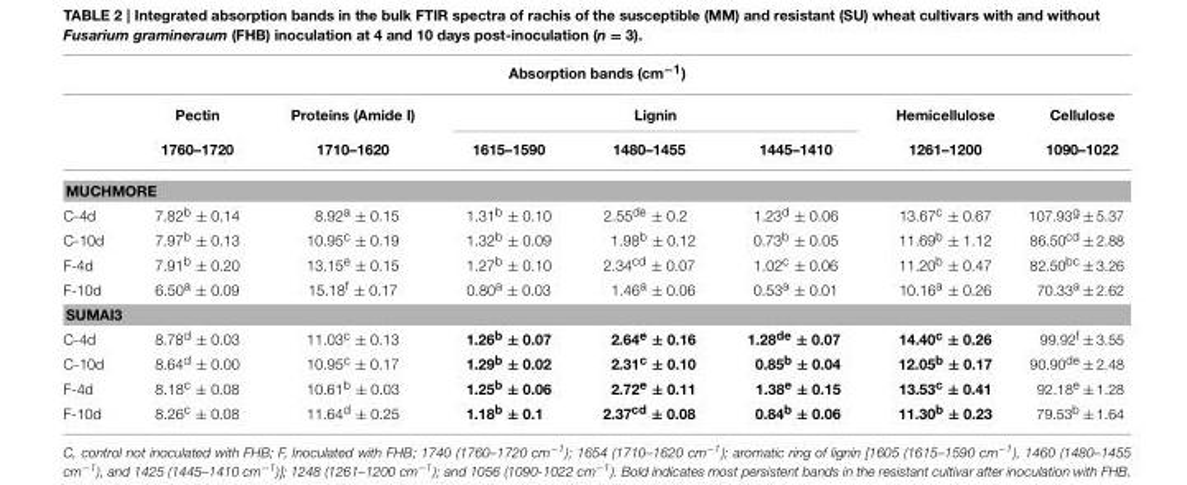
<table><thead><tr><td colspan="8">Absorption bands (cm<sup>−1</sup>)</td></tr><tr><td rowspan="2"></td><td rowspan="2">Pectin 1760–1720</td><td rowspan="2">Proteins (Amide I) 1710–1620</td><td colspan="3">Lignin</td><td rowspan="2">Hemicellulose 1261–1200</td><td rowspan="2">Cellulose 1090–1022</td></tr><tr><td>1615–1590</td><td>1480–1455</td><td>1445–1410</td></tr></thead><tbody><tr><td colspan="8">MUCHMORE</td></tr><tr><td>C-4d</td><td>7.82<sup>b</sup> ± 0.14</td><td>8.92<sup>a</sup> ± 0.15</td><td>1.31<sup>b</sup> ± 0.10</td><td>2.55<sup>de</sup> ± 0.2</td><td>1.23<sup>d</sup> ± 0.06</td><td>13.67<sup>c</sup> ± 0.67</td><td>107.93<sup>g</sup> ± 5.37</td></tr><tr><td>C-10d</td><td>7.97<sup>b</sup> ± 0.13</td><td>10.95<sup>c</sup> ± 0.19</td><td>1.32<sup>b</sup> ± 0.09</td><td>1.98<sup>b</sup> ± 0.12</td><td>0.73<sup>b</sup> ± 0.05</td><td>11.69<sup>b</sup> ± 1.12</td><td>86.50<sup>cd</sup> ± 2.88</td></tr><tr><td>F-4d</td><td>7.91<sup>b</sup> ± 0.20</td><td>13.15<sup>e</sup> ± 0.15</td><td>1.27<sup>b</sup> ± 0.10</td><td>2.34<sup>cd</sup> ± 0.07</td><td>1.02<sup>c</sup> ± 0.06</td><td>11.20<sup>b</sup> ± 0.47</td><td>82.50<sup>bc</sup> ± 3.26</td></tr><tr><td>F-10d</td><td>6.50<sup>a</sup> ± 0.09</td><td>15.18<sup>f</sup> ± 0.17</td><td>0.80<sup>a</sup> ± 0.03</td><td>1.46<sup>a</sup> ± 0.06</td><td>0.53<sup>a</sup> ± 0.01</td><td>10.16<sup>a</sup> ± 0.26</td><td>70.33<sup>a</sup> ± 2.62</td></tr><tr><td colspan="8">SUMAI3</td></tr><tr><td>C-4d</td><td>8.78<sup>d</sup> ± 0.03</td><td>11.03<sup>c</sup> ± 0.13</td><td>1.26<sup>b</sup> ± 0.07</td><td>2.64<sup>e</sup> ± 0.16</td><td>1.28<sup>de</sup> ± 0.07</td><td>14.40<sup>c</sup> ± 0.26</td><td>99.92<sup>f</sup> ± 3.55</td></tr><tr><td>C-10d</td><td>8.64<sup>d</sup> ± 0.00</td><td>10.95<sup>c</sup> ± 0.17</td><td>1.29<sup>b</sup> ± 0.02</td><td>2.31<sup>c</sup> ± 0.10</td><td>0.85<sup>b</sup> ± 0.04</td><td>12.05<sup>b</sup> ± 0.17</td><td>90.90<sup>de</sup> ± 2.48</td></tr><tr><td>F-4d</td><td>8.18<sup>c</sup> ± 0.08</td><td>10.61<sup>b</sup> ± 0.03</td><td>1.25<sup>b</sup> ± 0.06</td><td>2.72<sup>e</sup> ± 0.11</td><td>1.38<sup>e</sup> ± 0.15</td><td>13.53<sup>c</sup> ± 0.41</td><td>92.18<sup>e</sup> ± 1.28</td></tr><tr><td>F-10<sup>d</sup></td><td>8.26<sup>c</sup> ± 0.08</td><td>11.64<sup>d</sup> ± 0.25</td><td>1.18<sup>b</sup> ± 0.1</td><td>2.37<sup>cd</sup> ± 0.08</td><td>0.84<sup>b</sup> ± 0.06</td><td>11.30<sup>b</sup> ± 0.23</td><td>79.53<sup>b</sup> ± 1.64</td></tr></tbody></table>